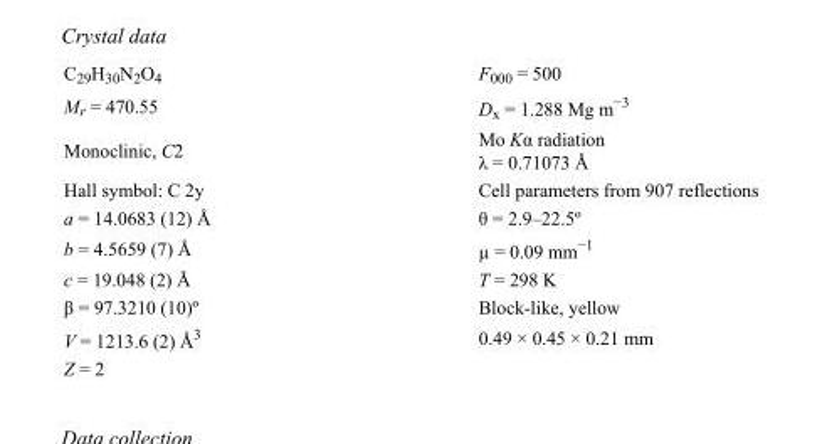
<table><tbody><tr><td>C<sub>29</sub>H<sub>30</sub>N<sub>2</sub>O<sub>4</sub></td><td>F000 = 500</td></tr><tr><td>M<sub>r</sub> = 470.55</td><td>D<sub>x</sub> = 1.288 Mg m<sup>−3</sup></td></tr><tr><td>Monoclinic, C2</td><td>Mo Kα radiation λ = 0.71073 Å</td></tr><tr><td>Hall symbol: C 2y</td><td>Cell parameters from 907 reflections</td></tr><tr><td>a = 14.0683 (12) Å</td><td>θ = 2.9–22.5º</td></tr><tr><td>b = 4.5659 (7) Å</td><td>µ = 0.09 mm<sup>−1</sup></td></tr><tr><td>c = 19.048 (2) Å</td><td>T = 298 K</td></tr><tr><td>β = 97.3210 (10)º</td><td>Block-like, yellow</td></tr><tr><td>V = 1213.6 (2) Å<sup>3</sup></td><td>0.49 × 0.45 × 0.21 mm</td></tr><tr><td>Z = 2</td><td></td></tr></tbody></table>